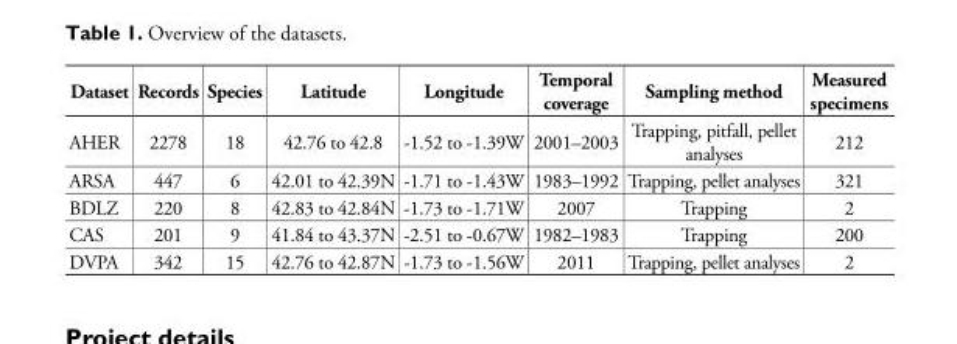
<table><thead><tr><td>Dataset</td><td>Records</td><td>Species</td><td>Latitude</td><td>Longitude</td><td>Temporal coverage</td><td>Sampling method</td><td>Measured specimens</td></tr></thead><tbody><tr><td>AHER</td><td>2278</td><td>18</td><td>42.76 to 42.8</td><td>-1.52 to -1.39W</td><td>2001–2003</td><td>Trapping, pitfall, pellet analyses</td><td>212</td></tr><tr><td>ARSA</td><td>447</td><td>6</td><td>42.01 to 42.39N</td><td>-1.71 to -1.43W</td><td>1983–1992</td><td>Trapping, pellet analyses</td><td>321</td></tr><tr><td>BDLZ</td><td>220</td><td>8</td><td>42.83 to 42.84N</td><td>-1.73 to -1.71W</td><td>2007</td><td>Trapping</td><td>2</td></tr><tr><td>CAS</td><td>201</td><td>9</td><td>41.84 to 43.37N</td><td>-2.51 to -0.67W</td><td>1982–1983</td><td>Trapping</td><td>200</td></tr><tr><td>DVPA</td><td>342</td><td>15</td><td>42.76 to 42.87N</td><td>-1.73 to -1.56W</td><td>2011</td><td>Trapping, pellet analyses</td><td>2</td></tr></tbody></table>